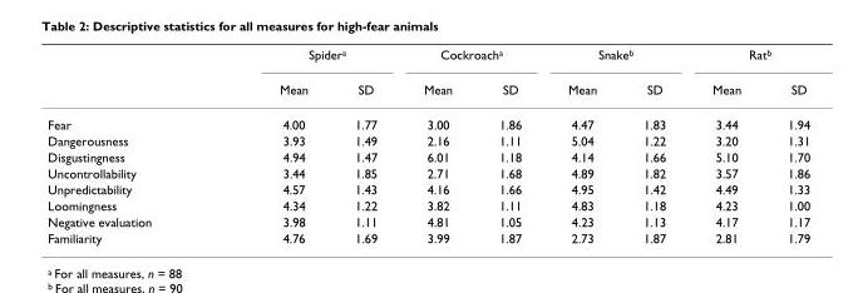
<table><thead><tr><td rowspan="2"></td><td colspan="2">Spider<sup>a</sup></td><td colspan="2">Cockroach<sup>a</sup></td><td colspan="2">Snake<sup>b</sup></td><td colspan="2">Rat<sup>b</sup></td></tr><tr><td>Mean</td><td>SD</td><td>Mean</td><td>SD</td><td>Mean</td><td>SD</td><td>Mean</td><td>SD</td></tr></thead><tbody><tr><td>Fear</td><td>4.00</td><td>1.77</td><td>3.00</td><td>1.86</td><td>4.47</td><td>1.83</td><td>3.44</td><td>1.94</td></tr><tr><td>Dangerousness</td><td>3.93</td><td>1.49</td><td>2.16</td><td>1.11</td><td>5.04</td><td>1.22</td><td>3.20</td><td>1.31</td></tr><tr><td>Disgustingness</td><td>4.94</td><td>1.47</td><td>6.01</td><td>1.18</td><td>4.14</td><td>1.66</td><td>5.10</td><td>1.70</td></tr><tr><td>Uncontrollability</td><td>3.44</td><td>1.85</td><td>2.71</td><td>1.68</td><td>4.89</td><td>1.82</td><td>3.57</td><td>1.86</td></tr><tr><td>Unpredictability</td><td>4.57</td><td>1.43</td><td>4.16</td><td>1.66</td><td>4.95</td><td>1.42</td><td>4.49</td><td>1.33</td></tr><tr><td>Loomingness</td><td>4.34</td><td>1.22</td><td>3.82</td><td>1.11</td><td>4.83</td><td>1.18</td><td>4.23</td><td>1.00</td></tr><tr><td>Negative evaluation</td><td>3.98</td><td>1.11</td><td>4.81</td><td>1.05</td><td>4.23</td><td>1.13</td><td>4.17</td><td>1.17</td></tr><tr><td>Familiarity</td><td>4.76</td><td>1.69</td><td>3.99</td><td>1.87</td><td>2.73</td><td>1.87</td><td>2.81</td><td>1.79</td></tr></tbody></table>